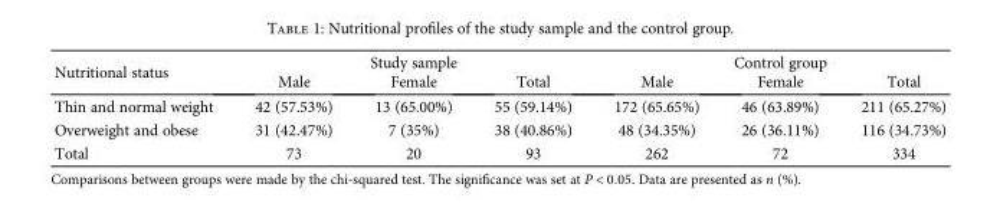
<table><thead><tr><td rowspan="2">Nutritional status</td><td colspan="3">Study sample</td><td colspan="3">Control group</td></tr><tr><td>Male</td><td>Female</td><td>Total</td><td>Male</td><td>Female</td><td>Total</td></tr></thead><tbody><tr><td>Thin and normal weight</td><td>42 (57.53%)</td><td>13 (65.00%)</td><td>55 (59.14%)</td><td>172 (65.65%)</td><td>46 (63.89%)</td><td>211 (65.27%)</td></tr><tr><td>Overweight and obese</td><td>31 (42.47%)</td><td>7 (35%)</td><td>38 (40.86%)</td><td>48 (34.35%)</td><td>26 (36.11%)</td><td>116 (34.73%)</td></tr><tr><td>Total</td><td>73</td><td>20</td><td>93</td><td>262</td><td>72</td><td>334</td></tr></tbody></table>